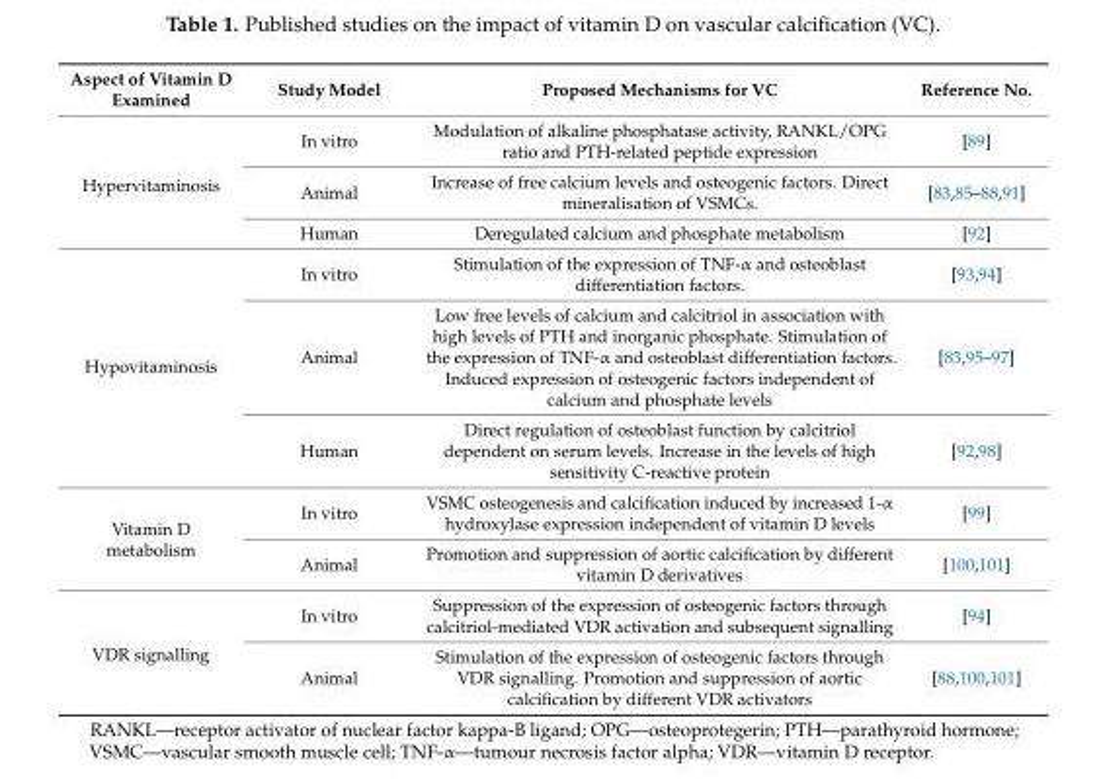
<table><thead><tr><td>Aspect of Vitamin D Examined</td><td>Study Model</td><td>Proposed Mechanisms for VC</td><td>Reference No.</td></tr></thead><tbody><tr><td rowspan="3">Hypervitaminosis</td><td>In vitro</td><td>Modulation of alkaline phosphatase activity, RANKL/OPG ratio and PTH-related peptide expression</td><td>[89]</td></tr><tr><td>Animal</td><td>Increase of free calcium levels and osteogenic factors. Direct mineralisation of VSMCs.</td><td>[83,85–88,91]</td></tr><tr><td>Human</td><td>Deregulated calcium and phosphate metabolism</td><td>[92]</td></tr><tr><td rowspan="3">Hypovitaminosis</td><td>In vitro</td><td>Stimulation of the expression of TNF-α and osteoblast differentiation factors.</td><td>[93,94]</td></tr><tr><td>Animal</td><td>Low free levels of calcium and calcitriol in association with high levels of PTH and inorganic phosphate. Stimulation of the expression of TNF-α and osteoblast differentiation factors. Induced expression of osteogenic factors independent of calcium and phosphate levels</td><td>[83,95–97]</td></tr><tr><td>Human</td><td>Direct regulation of osteoblast function by calcitriol dependent on serum levels. Increase in the levels of high sensitivity C-reactive protein</td><td>[92,98]</td></tr><tr><td rowspan="2">Vitamin D metabolism</td><td>In vitro</td><td>VSMC osteogenesis and calcification induced by increased 1-α hydroxylase expression independent of vitamin D levels</td><td>[99]</td></tr><tr><td>Animal</td><td>Promotion and suppression of aortic calcification by different vitamin D derivatives</td><td>[100,101]</td></tr><tr><td rowspan="2">VDR signalling</td><td>In vitro</td><td>Suppression of the expression of osteogenic factors through calcitriol-mediated VDR activation and subsequent signalling</td><td>[94]</td></tr><tr><td>Animal</td><td>Stimulation of the expression of osteogenic factors through VDR signalling. Promotion and suppression of aortic calcification by different VDR activators</td><td>[88,100,101]</td></tr></tbody></table>